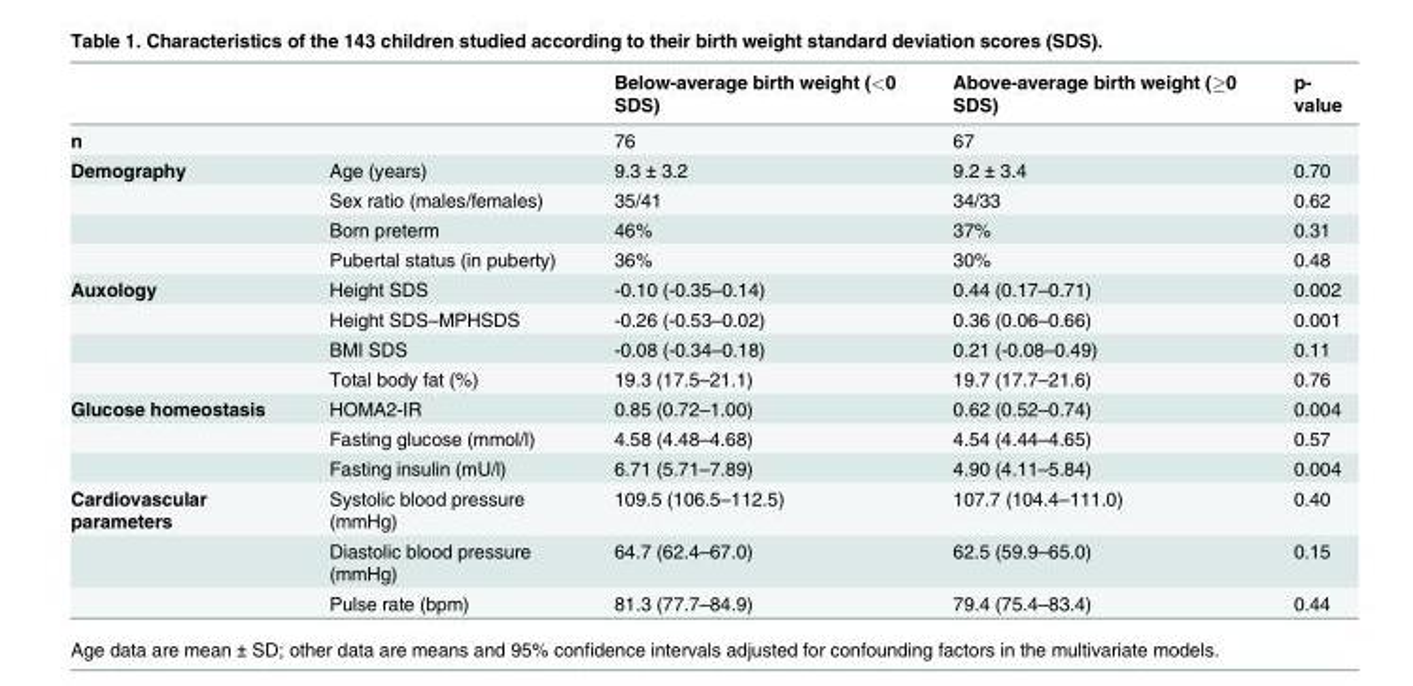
<table><thead><tr><td></td><td></td><td>Below-average birth weight (&lt;0 SDS)</td><td>Above-average birth weight (≥0 SDS)</td><td>p- value</td></tr></thead><tbody><tr><td>n</td><td></td><td>76</td><td>67</td><td></td></tr><tr><td rowspan="4">Demography</td><td>Age (years)</td><td>9.3 ± 3.2</td><td>9.2 ± 3.4</td><td>0.70</td></tr><tr><td>Sex ratio (males/females)</td><td>35/41</td><td>34/33</td><td>0.62</td></tr><tr><td>Born preterm</td><td>46%</td><td>37%</td><td>0.31</td></tr><tr><td>Pubertal status (in puberty)</td><td>36%</td><td>30%</td><td>0.48</td></tr><tr><td rowspan="4">Auxology</td><td>Height SDS</td><td>-0.10 (-0.35–0.14)</td><td>0.44 (0.17–0.71)</td><td>0.002</td></tr><tr><td>Height SDS–MPHSDS</td><td>-0.26 (-0.53–0.02)</td><td>0.36 (0.06–0.66)</td><td>0.001</td></tr><tr><td>BMI SDS</td><td>-0.08 (-0.34–0.18)</td><td>0.21 (-0.08–0.49)</td><td>0.11</td></tr><tr><td>Total body fat (%)</td><td>19.3 (17.5–21.1)</td><td>19.7 (17.7–21.6)</td><td>0.76</td></tr><tr><td rowspan="3">Glucose homeostasis</td><td>HOMA2-IR</td><td>0.85 (0.72–1.00)</td><td>0.62 (0.52–0.74)</td><td>0.004</td></tr><tr><td>Fasting glucose (mmol/l)</td><td>4.58 (4.48–4.68)</td><td>4.54 (4.44–4.65)</td><td>0.57</td></tr><tr><td>Fasting insulin (mU/l)</td><td>6.71 (5.71–7.89)</td><td>4.90 (4.11–5.84)</td><td>0.004</td></tr><tr><td rowspan="3">Cardiovascular parameters</td><td>Systolic blood pressure (mmHg)</td><td>109.5 (106.5–112.5)</td><td>107.7 (104.4–111.0)</td><td>0.40</td></tr><tr><td>Diastolic blood pressure (mmHg)</td><td>64.7 (62.4–67.0)</td><td>62.5 (59.9–65.0)</td><td>0.15</td></tr><tr><td>Pulse rate (bpm)</td><td>81.3 (77.7–84.9)</td><td>79.4 (75.4–83.4)</td><td>0.44</td></tr></tbody></table>